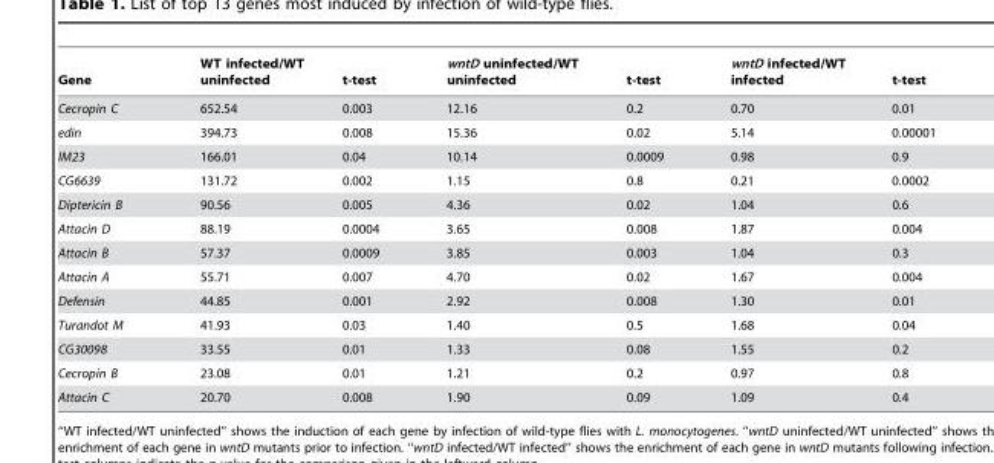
<table><thead><tr><td>Gene</td><td>WT infected/WT uninfected</td><td>t-test</td><td>wntD uninfected/WT uninfected</td><td>t-test</td><td>wntD infected/WT infected</td><td>t-test</td></tr></thead><tbody><tr><td>Cecropin C</td><td>652.54</td><td>0.003</td><td>12.16</td><td>0.2</td><td>0.70</td><td>0.01</td></tr><tr><td>edin</td><td>394.73</td><td>0.008</td><td>15.36</td><td>0.02</td><td>5.14</td><td>0.00001</td></tr><tr><td>IM23</td><td>166.01</td><td>0.04</td><td>10.14</td><td>0.0009</td><td>0.98</td><td>0.9</td></tr><tr><td>CG6639</td><td>131.72</td><td>0.002</td><td>1.15</td><td>0.8</td><td>0.21</td><td>0.0002</td></tr><tr><td>Diptericin B</td><td>90.56</td><td>0.005</td><td>4.36</td><td>0.02</td><td>1.04</td><td>0.6</td></tr><tr><td>Attacin D</td><td>88.19</td><td>0.0004</td><td>3.65</td><td>0.008</td><td>1.87</td><td>0.004</td></tr><tr><td>Attacin B</td><td>57.37</td><td>0.0009</td><td>3.85</td><td>0.003</td><td>1.04</td><td>0.3</td></tr><tr><td>Attacin A</td><td>55.71</td><td>0.007</td><td>4.70</td><td>0.02</td><td>1.67</td><td>0.004</td></tr><tr><td>Defensin</td><td>44.85</td><td>0.001</td><td>2.92</td><td>0.008</td><td>1.30</td><td>0.01</td></tr><tr><td>Turandot M</td><td>41.93</td><td>0.03</td><td>1.40</td><td>0.5</td><td>1.68</td><td>0.04</td></tr><tr><td>CG30098</td><td>33.55</td><td>0.01</td><td>1.33</td><td>0.08</td><td>1.55</td><td>0.2</td></tr><tr><td>Cecropin B</td><td>23.08</td><td>0.01</td><td>1.21</td><td>0.2</td><td>0.97</td><td>0.8</td></tr><tr><td>Attacin C</td><td>20.70</td><td>0.008</td><td>1.90</td><td>0.09</td><td>1.09</td><td>0.4</td></tr></tbody></table>